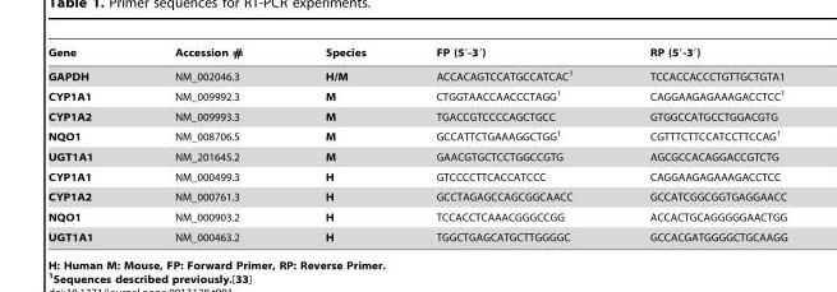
<table><thead><tr><td>Gene</td><td>Accession #</td><td>Species</td><td>FP (5′-3′)</td><td>RP (5′-3′)</td></tr></thead><tbody><tr><td>GAPDH</td><td>NM_002046.3</td><td>H/M</td><td>ACCACAGTCCATGCCATCAC1</td><td>TCCACCACCCTGTTGCTGTA1</td></tr><tr><td>CYP1A1</td><td>NM_009992.3</td><td>M</td><td>CTGGTAACCAACCCTAGG1</td><td>CAGGAAGAGAAAGACCTCC1</td></tr><tr><td>CYP1A2</td><td>NM_009993.3</td><td>M</td><td>TGACCGTCCCCAGCTGCC</td><td>GTGGCCATGCCTGGACGTG</td></tr><tr><td>NQO1</td><td>NM_008706.5</td><td>M</td><td>GCCATTCTGAAAGGCTGG1</td><td>CGTTTCTTCCATCCTTCCAG1</td></tr><tr><td>UGT1A1</td><td>NM_201645.2</td><td>M</td><td>GAACGTGCTCCTGGCCGTG</td><td>AGCGCCACAGGACCGTCTG</td></tr><tr><td>CYP1A1</td><td>NM_000499.3</td><td>H</td><td>GTCCCCTTCACCATCCC</td><td>CAGGAAGAGAAAGACCTCC</td></tr><tr><td>CYP1A2</td><td>NM_000761.3</td><td>H</td><td>GCCTAGAGCCAGCGGCAACC</td><td>GCCATCGGCGGTGAGGAACC</td></tr><tr><td>NQO1</td><td>NM_000903.2</td><td>H</td><td>TCCACCTCAAACGGGCCGG</td><td>ACCACTGCAGGGGGAACTGG</td></tr><tr><td>UGT1A1</td><td>NM_000463.2</td><td>H</td><td>TGGCTGAGCATGCTTGGGGC</td><td>GCCACGATGGGGCTGCAAGG</td></tr></tbody></table>